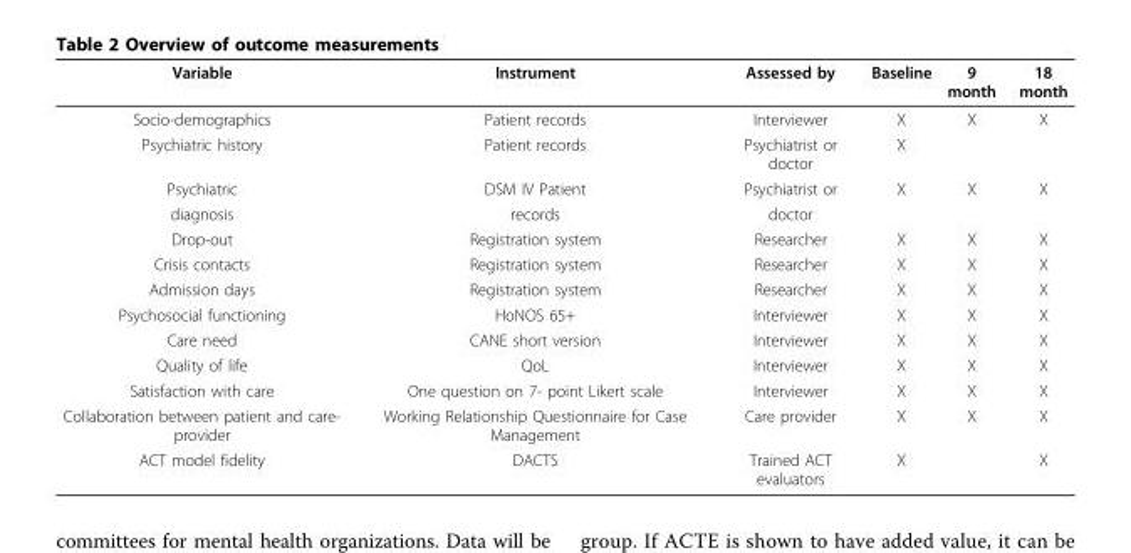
<table><thead><tr><td>Variable</td><td>Instrument</td><td>Assessed by</td><td>Baseline</td><td>9 month</td><td>18 month</td></tr></thead><tbody><tr><td>Socio-demographics</td><td>Patient records</td><td>Interviewer</td><td>X</td><td>X</td><td>X</td></tr><tr><td>Psychiatric history</td><td>Patient records</td><td>Psychiatrist or doctor</td><td>X</td><td></td><td></td></tr><tr><td>Psychiatric</td><td>DSM IV Patient</td><td>Psychiatrist or</td><td>X</td><td>X</td><td>X</td></tr><tr><td>diagnosis</td><td>records</td><td>doctor</td><td></td><td></td><td></td></tr><tr><td>Drop-out</td><td>Registration system</td><td>Researcher</td><td>X</td><td>X</td><td>X</td></tr><tr><td>Crisis contacts</td><td>Registration system</td><td>Researcher</td><td>X</td><td>X</td><td>X</td></tr><tr><td>Admission days</td><td>Registration system</td><td>Researcher</td><td>X</td><td>X</td><td>X</td></tr><tr><td>Psychosocial functioning</td><td>HoNOS 65+</td><td>Interviewer</td><td>X</td><td>X</td><td>X</td></tr><tr><td>Care need</td><td>CANE short version</td><td>Interviewer</td><td>X</td><td>X</td><td>X</td></tr><tr><td>Quality of life</td><td>QoL</td><td>Interviewer</td><td>X</td><td>X</td><td>X</td></tr><tr><td>Satisfaction with care</td><td>One question on 7- point Likert scale</td><td>Interviewer</td><td>X</td><td>X</td><td>X</td></tr><tr><td>Collaboration between patient and care- provider</td><td>Working Relationship Questionnaire for Case Management</td><td>Care provider</td><td>X</td><td>X</td><td>X</td></tr><tr><td>ACT model fidelity</td><td>DACTS</td><td>Trained ACT evaluators</td><td>X</td><td></td><td>X</td></tr></tbody></table>